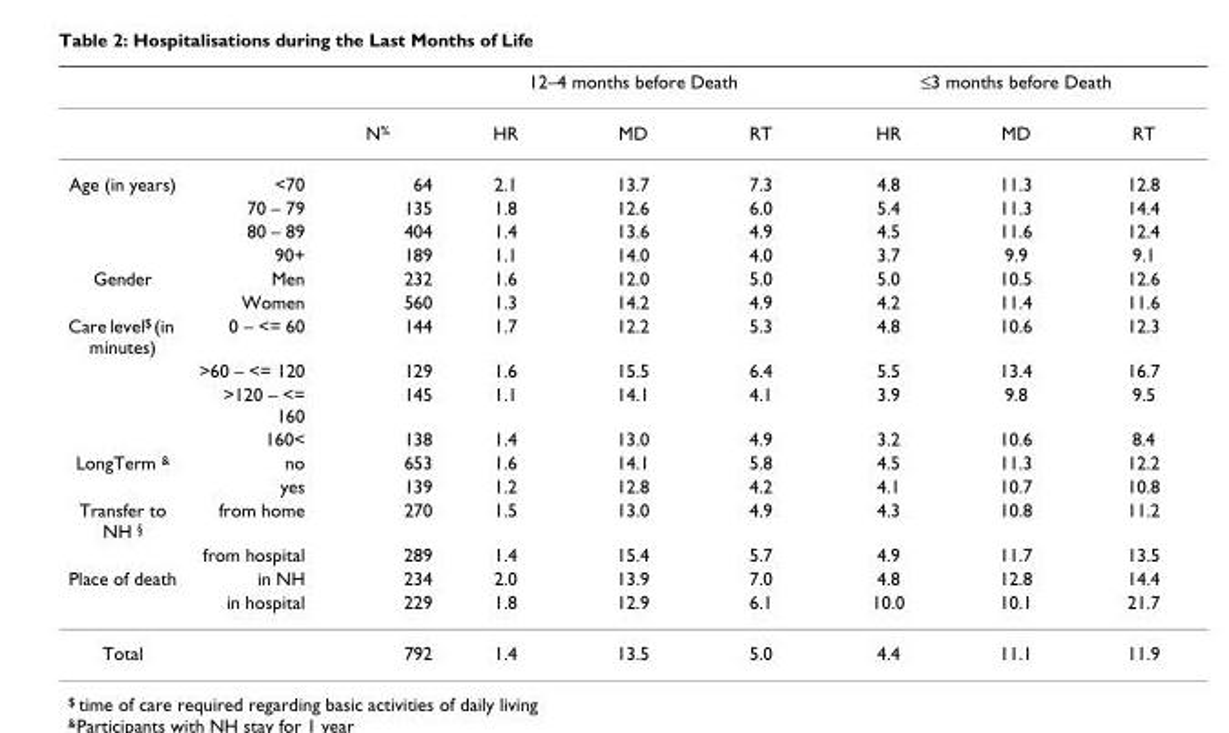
<table><thead><tr><td rowspan="2"></td><td rowspan="2"></td><td rowspan="2">N%</td><td colspan="3">12–4 months before Death</td><td colspan="3">≤3 months before Death</td></tr><tr><td>HR</td><td>MD</td><td>RT</td><td>HR</td><td>MD</td><td>RT</td></tr></thead><tbody><tr><td rowspan="4">Age (in years)</td><td>&lt;70</td><td>64</td><td>2.1</td><td>13.7</td><td>7.3</td><td>4.8</td><td>11.3</td><td>12.8</td></tr><tr><td>70 – 79</td><td>135</td><td>1.8</td><td>12.6</td><td>6.0</td><td>5.4</td><td>11.3</td><td>14.4</td></tr><tr><td>80 – 89</td><td>404</td><td>1.4</td><td>13.6</td><td>4.9</td><td>4.5</td><td>11.6</td><td>12.4</td></tr><tr><td>90+</td><td>189</td><td>1.1</td><td>14.0</td><td>4.0</td><td>3.7</td><td>9.9</td><td>9.1</td></tr><tr><td rowspan="2">Gender</td><td>Men</td><td>232</td><td>1.6</td><td>12.0</td><td>5.0</td><td>5.0</td><td>10.5</td><td>12.6</td></tr><tr><td>Women</td><td>560</td><td>1.3</td><td>14.2</td><td>4.9</td><td>4.2</td><td>11.4</td><td>11.6</td></tr><tr><td rowspan="4">Care level$ (in minutes)</td><td>0 – &lt;= 60</td><td>144</td><td>1.7</td><td>12.2</td><td>5.3</td><td>4.8</td><td>10.6</td><td>12.3</td></tr><tr><td>&gt;60 – &lt;= 120</td><td>129</td><td>1.6</td><td>15.5</td><td>6.4</td><td>5.5</td><td>13.4</td><td>16.7</td></tr><tr><td>&gt;120 – &lt;= 160</td><td>145</td><td>1.1</td><td>14.1</td><td>4.1</td><td>3.9</td><td>9.8</td><td>9.5</td></tr><tr><td>160&lt;</td><td>138</td><td>1.4</td><td>13.0</td><td>4.9</td><td>3.2</td><td>10.6</td><td>8.4</td></tr><tr><td rowspan="2">LongTerm &amp;</td><td>no</td><td>653</td><td>1.6</td><td>14.1</td><td>5.8</td><td>4.5</td><td>11.3</td><td>12.2</td></tr><tr><td>yes</td><td>139</td><td>1.2</td><td>12.8</td><td>4.2</td><td>4.1</td><td>10.7</td><td>10.8</td></tr><tr><td rowspan="2">Transfer to NH §</td><td>from home</td><td>270</td><td>1.5</td><td>13.0</td><td>4.9</td><td>4.3</td><td>10.8</td><td>11.2</td></tr><tr><td>from hospital</td><td>289</td><td>1.4</td><td>15.4</td><td>5.7</td><td>4.9</td><td>11.7</td><td>13.5</td></tr><tr><td rowspan="2">Place of death</td><td>in NH</td><td>234</td><td>2.0</td><td>13.9</td><td>7.0</td><td>4.8</td><td>12.8</td><td>14.4</td></tr><tr><td>in hospital</td><td>229</td><td>1.8</td><td>12.9</td><td>6.1</td><td>10.0</td><td>10.1</td><td>21.7</td></tr><tr><td>Total</td><td></td><td>792</td><td>1.4</td><td>13.5</td><td>5.0</td><td>4.4</td><td>11.1</td><td>11.9</td></tr></tbody></table>